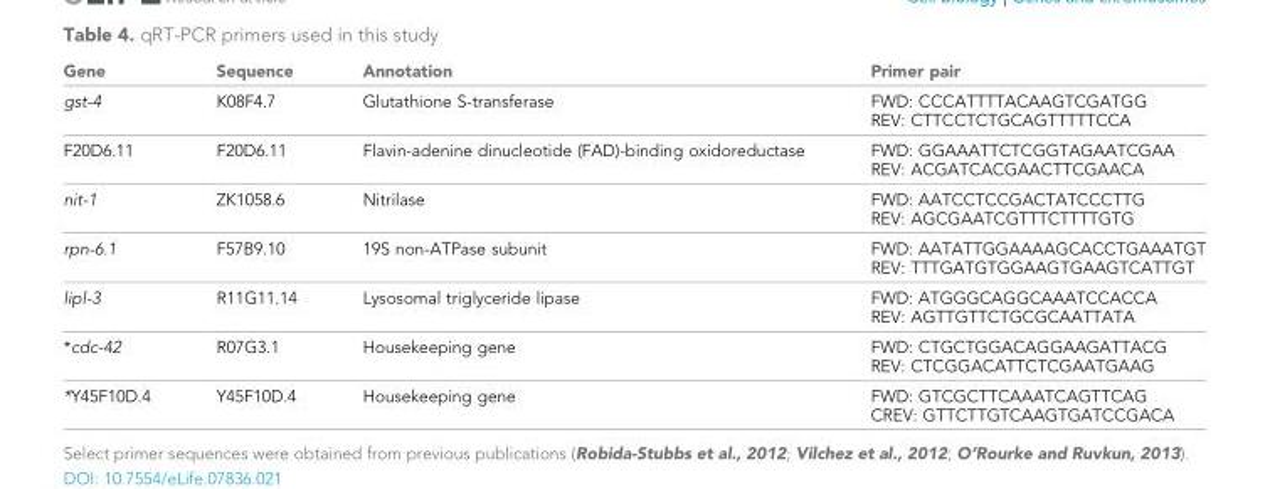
<table><thead><tr><td>Gene</td><td>Sequence</td><td>Annotation</td><td>Primer pair</td></tr></thead><tbody><tr><td>gst-4</td><td>K08F4.7</td><td>Glutathione S-transferase</td><td>FWD: CCCATTTTACAAGTCGATGG REV: CTTCCTCTGCAGTTTTTCCA</td></tr><tr><td>F20D6.11</td><td>F20D6.11</td><td>Flavin-adenine dinucleotide (FAD)-binding oxidoreductase</td><td>FWD: GGAAATTCTCGGTAGAATCGAA REV: ACGATCACGAACTTCGAACA</td></tr><tr><td>nit-1</td><td>ZK1058.6</td><td>Nitrilase</td><td>FWD: AATCCTCCGACTATCCCTTG REV: AGCGAATCGTTTCTTTTGTG</td></tr><tr><td>rpn-6.1</td><td>F57B9.10</td><td>19S non-ATPase subunit</td><td>FWD: AATATTGGAAAAGCACCTGAAATGT REV: TTTGATGTGGAAGTGAAGTCATTGT</td></tr><tr><td>lipl-3</td><td>R11G11.14</td><td>Lysosomal triglyceride lipase</td><td>FWD: ATGGGCAGGCAAATCCACCA REV: AGTTGTTCTGCGCAATTATA</td></tr><tr><td>*cdc-42</td><td>R07G3.1</td><td>Housekeeping gene</td><td>FWD: CTGCTGGACAGGAAGATTACG REV: CTCGGACATTCTCGAATGAAG</td></tr><tr><td>*Y45F10D.4</td><td>Y45F10D.4</td><td>Housekeeping gene</td><td>FWD: GTCGCTTCAAATCAGTTCAG CREV: GTTCTTGTCAAGTGATCCGACA</td></tr></tbody></table>